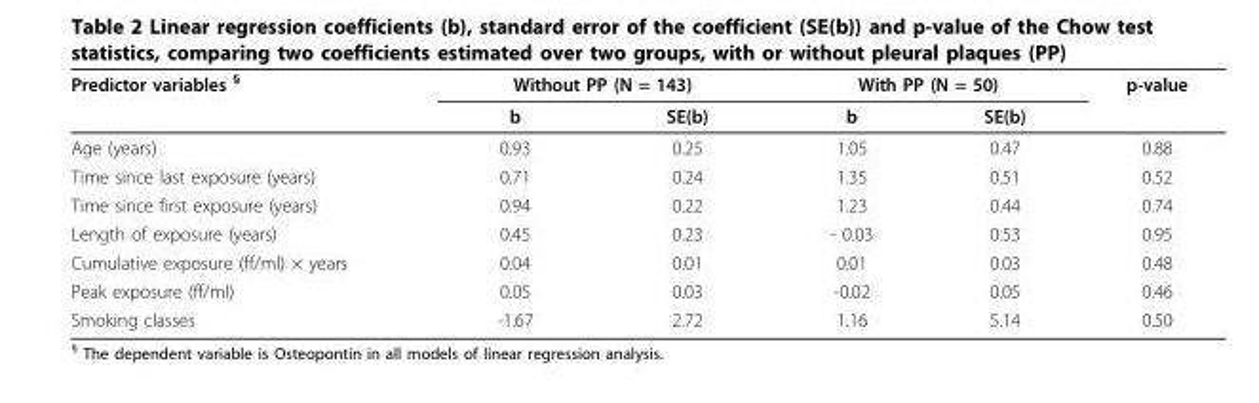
<table><thead><tr><td rowspan="2">Predictor variables <sup>§</sup></td><td colspan="2">Without PP (N = 143)</td><td colspan="2">With PP (N = 50)</td><td rowspan="2">p-value</td></tr><tr><td>b</td><td>SE(b)</td><td>b</td><td>SE(b)</td></tr></thead><tbody><tr><td>Age (years)</td><td>0.93</td><td>0.25</td><td>1.05</td><td>0.47</td><td>0.88</td></tr><tr><td>Time since last exposure (years)</td><td>0.71</td><td>0.24</td><td>1.35</td><td>0.51</td><td>0.52</td></tr><tr><td>Time since first exposure (years)</td><td>0.94</td><td>0.22</td><td>1.23</td><td>0.44</td><td>0.74</td></tr><tr><td>Length of exposure (years)</td><td>0.45</td><td>0.23</td><td>- 0.03</td><td>0.53</td><td>0.95</td></tr><tr><td>Cumulative exposure (ff/ml) × years</td><td>0.04</td><td>0.01</td><td>0.01</td><td>0.03</td><td>0.48</td></tr><tr><td>Peak exposure (ff/ml)</td><td>0.05</td><td>0.03</td><td>-0.02</td><td>0.05</td><td>0.46</td></tr><tr><td>Smoking classes</td><td>-1.67</td><td>2.72</td><td>1.16</td><td>5.14</td><td>0.50</td></tr></tbody></table>